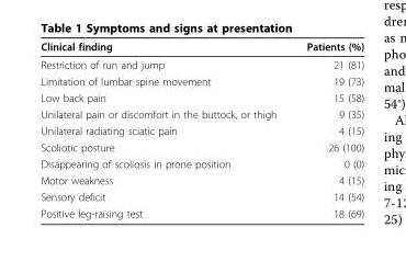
<table><thead><tr><td>Clinical finding</td><td>Patients (%)</td></tr></thead><tbody><tr><td>Restriction of run and jump</td><td>21 (81)</td></tr><tr><td>Limitation of lumbar spine movement</td><td>19 (73)</td></tr><tr><td>Low back pain</td><td>15 (58)</td></tr><tr><td>Unilateral pain or discomfort in the buttock, or thigh</td><td>9 (35)</td></tr><tr><td>Unilateral radiating sciatic pain</td><td>4 (15)</td></tr><tr><td>Scoliotic posture</td><td>26 (100)</td></tr><tr><td>Disappearing of scoliosis in prone position</td><td>0 (0)</td></tr><tr><td>Motor weakness</td><td>4 (15)</td></tr><tr><td>Sensory deficit</td><td>14 (54)</td></tr><tr><td>Positive leg-raising test</td><td>18 (69)</td></tr></tbody></table>